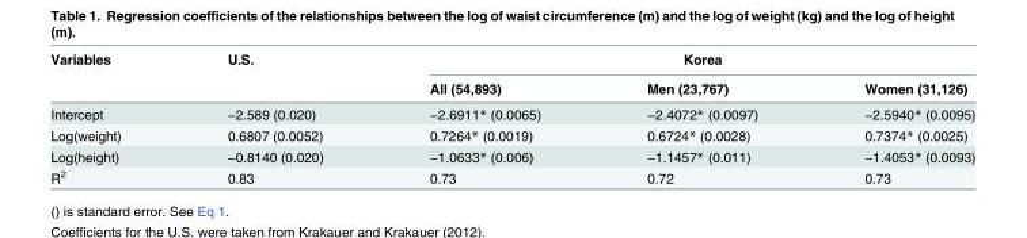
<table><thead><tr><td rowspan="2">Variables</td><td rowspan="2">U.S.</td><td colspan="3">Korea</td></tr><tr><td>All (54,893)</td><td>Men (23,767)</td><td>Women (31,126)</td></tr></thead><tbody><tr><td>Intercept</td><td>−2.589 (0.020)</td><td>−2.6911* (0.0065)</td><td>−2.4072* (0.0097)</td><td>−2.5940* (0.0095)</td></tr><tr><td>Log(weight)</td><td>0.6807 (0.0052)</td><td>0.7264* (0.0019)</td><td>0.6724* (0.0028)</td><td>0.7374* (0.0025)</td></tr><tr><td>Log(height)</td><td>−0.8140 (0.020)</td><td>−1.0633* (0.006)</td><td>−1.1457* (0.011)</td><td>−1.4053* (0.0093)</td></tr><tr><td>R<sup>2</sup></td><td>0.83</td><td>0.73</td><td>0.72</td><td>0.73</td></tr></tbody></table>